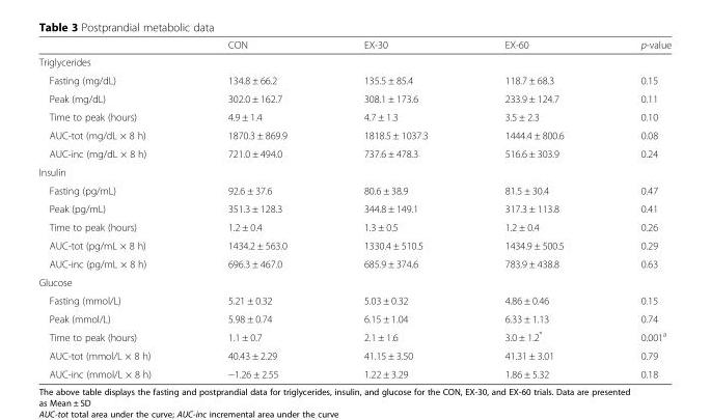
<table><thead><tr><td></td><td>CON</td><td>EX-30</td><td>EX-60</td><td>p-value</td></tr></thead><tbody><tr><td colspan="5">Triglycerides</td></tr><tr><td>Fasting (mg/dL)</td><td>134.8 ± 66.2</td><td>135.5 ± 85.4</td><td>118.7 ± 68.3</td><td>0.15</td></tr><tr><td>Peak (mg/dL)</td><td>302.0 ± 162.7</td><td>308.1 ± 173.6</td><td>233.9 ± 124.7</td><td>0.11</td></tr><tr><td>Time to peak (hours)</td><td>4.9 ± 1.4</td><td>4.7 ± 1.3</td><td>3.5 ± 2.3</td><td>0.10</td></tr><tr><td>AUC-tot (mg/dL × 8 h)</td><td>1870.3 ± 869.9</td><td>1818.5 ± 1037.3</td><td>1444.4 ± 800.6</td><td>0.08</td></tr><tr><td>AUC-inc (mg/dL × 8 h)</td><td>721.0 ± 494.0</td><td>737.6 ± 478.3</td><td>516.6 ± 303.9</td><td>0.24</td></tr><tr><td colspan="5">Insulin</td></tr><tr><td>Fasting (pg/mL)</td><td>92.6 ± 37.6</td><td>80.6 ± 38.9</td><td>81.5 ± 30.4</td><td>0.47</td></tr><tr><td>Peak (pg/mL)</td><td>351.3 ± 128.3</td><td>344.8 ± 149.1</td><td>317.3 ± 113.8</td><td>0.41</td></tr><tr><td>Time to peak (hours)</td><td>1.2 ± 0.4</td><td>1.3 ± 0.5</td><td>1.2 ± 0.4</td><td>0.26</td></tr><tr><td>AUC-tot (pg/mL × 8 h)</td><td>1434.2 ± 563.0</td><td>1330.4 ± 510.5</td><td>1434.9 ± 500.5</td><td>0.29</td></tr><tr><td>AUC-inc (pg/mL × 8 h)</td><td>696.3 ± 467.0</td><td>685.9 ± 374.6</td><td>783.9 ± 438.8</td><td>0.63</td></tr><tr><td colspan="5">Glucose</td></tr><tr><td>Fasting (mmol/L)</td><td>5.21 ± 0.32</td><td>5.03 ± 0.32</td><td>4.86 ± 0.46</td><td>0.15</td></tr><tr><td>Peak (mmol/L)</td><td>5.98 ± 0.74</td><td>6.15 ± 1.04</td><td>6.33 ± 1.13</td><td>0.74</td></tr><tr><td>Time to peak (hours)</td><td>1.1 ± 0.7</td><td>2.1 ± 1.6</td><td>3.0 ± 1.2*</td><td>0.001<sup>a</sup></td></tr><tr><td>AUC-tot (mmol/L × 8 h)</td><td>40.43 ± 2.29</td><td>41.15 ± 3.50</td><td>41.31 ± 3.01</td><td>0.79</td></tr><tr><td>AUC-inc (mmol/L × 8 h)</td><td>−1.26 ± 2.55</td><td>1.22 ± 3.29</td><td>1.86 ± 5.32</td><td>0.18</td></tr></tbody></table>